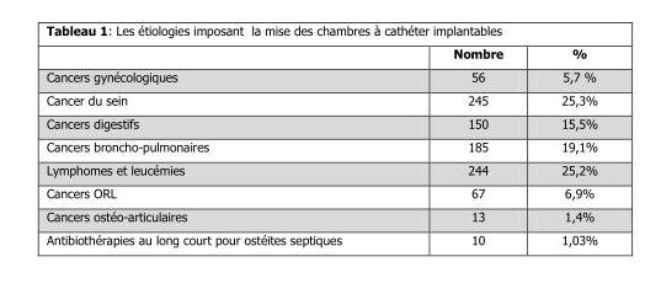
<table><thead><tr><td></td><td>Nombre</td><td>%</td></tr></thead><tbody><tr><td>Cancers gynécologiques</td><td>56</td><td>5,7 %</td></tr><tr><td>Cancer du sein</td><td>245</td><td>25,3%</td></tr><tr><td>Cancers digestifs</td><td>150</td><td>15,5%</td></tr><tr><td>Cancers broncho-pulmonaires</td><td>185</td><td>19,1%</td></tr><tr><td>Lymphomes et leucémies</td><td>244</td><td>25,2%</td></tr><tr><td>Cancers ORL</td><td>67</td><td>6,9%</td></tr><tr><td>Cancers ostéo-articulaires</td><td>13</td><td>1,4%</td></tr><tr><td>Antibiothérapies au long court pour ostéites septiques</td><td>10</td><td>1,03%</td></tr></tbody></table>